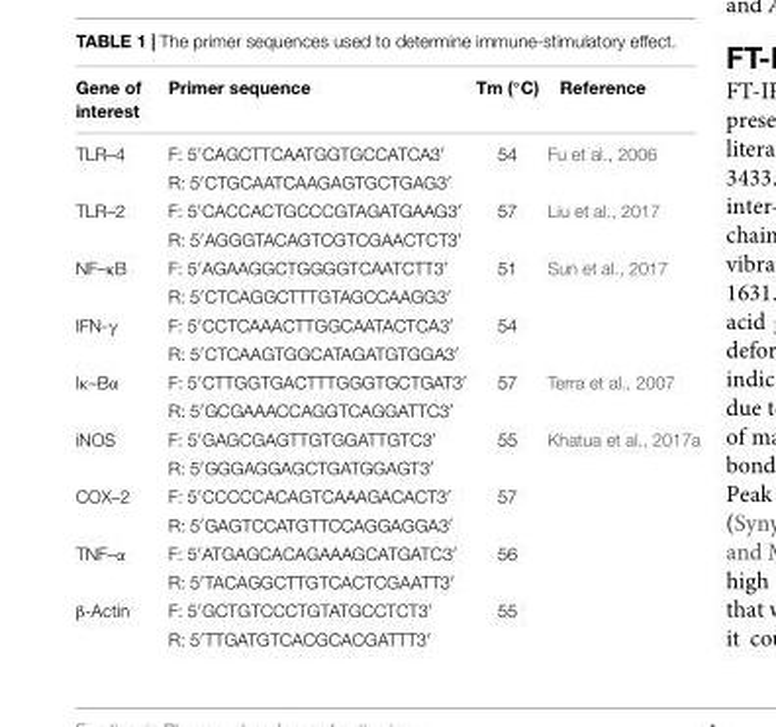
<table><thead><tr><td>Gene of interest</td><td>Primer sequence</td><td>Tm (◦C)</td><td>Reference</td></tr></thead><tbody><tr><td rowspan="2">TLR–4</td><td>F: 5′CAGCTTCAATGGTGCCATCA3′</td><td>54</td><td>Fu et al., 2006</td></tr><tr><td>R: 5′CTGCAATCAAGAGTGCTGAG3′</td><td></td><td></td></tr><tr><td rowspan="2">TLR–2</td><td>F: 5′CACCACTGCCCGTAGATGAAG3′</td><td>57</td><td>Liu et al., 2017</td></tr><tr><td>R: 5′AGGGTACAGTCGTCGAACTCT3′</td><td></td><td></td></tr><tr><td rowspan="2">NF–κB</td><td>F: 5′AGAAGGCTGGGGTCAATCTT3′</td><td>51</td><td>Sun et al., 2017</td></tr><tr><td>R: 5′CTCAGGCTTTGTAGCCAAGG3′</td><td></td><td></td></tr><tr><td rowspan="2">IFN-γ</td><td>F: 5′CCTCAAACTTGGCAATACTCA3′</td><td>54</td><td></td></tr><tr><td>R: 5′CTCAAGTGGCATAGATGTGGA3′</td><td></td><td></td></tr><tr><td rowspan="2">Iκ–Bα</td><td>F: 5′CTTGGTGACTTTGGGTGCTGAT3′</td><td>57</td><td>Terra et al., 2007</td></tr><tr><td>R: 5′GCGAAACCAGGTCAGGATTC3′</td><td></td><td></td></tr><tr><td rowspan="2">iNOS</td><td>F: 5′GAGCGAGTTGTGGATTGTC3′</td><td>55</td><td>Khatua et al., 2017a</td></tr><tr><td>R: 5′GGGAGGAGCTGATGGAGT3′</td><td></td><td></td></tr><tr><td rowspan="2">COX–2</td><td>F: 5′CCCCCACAGTCAAAGACACT3′</td><td>57</td><td></td></tr><tr><td>R: 5′GAGTCCATGTTCCAGGAGGA3′</td><td></td><td></td></tr><tr><td rowspan="2">TNF–α</td><td>F: 5′ATGAGCACAGAAAGCATGATC3′</td><td>56</td><td></td></tr><tr><td>R: 5′TACAGGCTTGTCACTCGAATT3′</td><td></td><td></td></tr><tr><td rowspan="2">β-Actin</td><td>F: 5′GCTGTCCCTGTATGCCTCT3′</td><td>55</td><td></td></tr><tr><td>R: 5′TTGATGTCACGCACGATTT3′</td><td></td><td></td></tr></tbody></table>